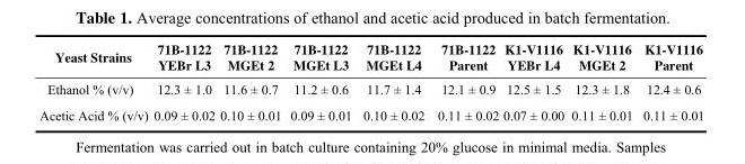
<table><thead><tr><td>Yeast Strains</td><td>71B-1122 YEBr L3</td><td>71B-1122 MGEt 2</td><td>71B-1122 MGEt L3</td><td>71B-1122 MGEt L4</td><td>71B-1122 Parent</td><td>K1-V1116 YEBr L4</td><td>K1-V1116 MGEt 2</td><td>K1-V1116 Parent</td></tr></thead><tbody><tr><td>Ethanol % (v/v)</td><td>12.3 ± 1.0</td><td>11.6 ± 0.7</td><td>11.2 ± 0.6</td><td>11.7 ± 1.4</td><td>12.1 ± 0.9</td><td>12.5 ± 1.5</td><td>12.3 ± 1.8</td><td>12.4 ± 0.6</td></tr><tr><td>Acetic Acid % (v/v)</td><td>0.09 ± 0.02</td><td>0.10 ± 0.01</td><td>0.09 ± 0.01</td><td>0.10 ± 0.02</td><td>0.11 ± 0.02</td><td>0.07 ± 0.00</td><td>0.11 ± 0.01</td><td>0.11 ± 0.01</td></tr></tbody></table>